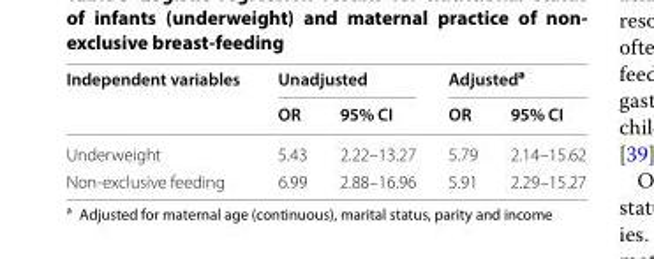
<table><thead><tr><td rowspan="2">Independent variables</td><td colspan="2">Unadjusted</td><td colspan="2">Adjusted<sup>a</sup></td></tr><tr><td>OR</td><td>95% CI</td><td>OR</td><td>95% CI</td></tr></thead><tbody><tr><td>Underweight</td><td>5.43</td><td>2.22–13.27</td><td>5.79</td><td>2.14–15.62</td></tr><tr><td>Non-exclusive feeding</td><td>6.99</td><td>2.88–16.96</td><td>5.91</td><td>2.29–15.27</td></tr></tbody></table>